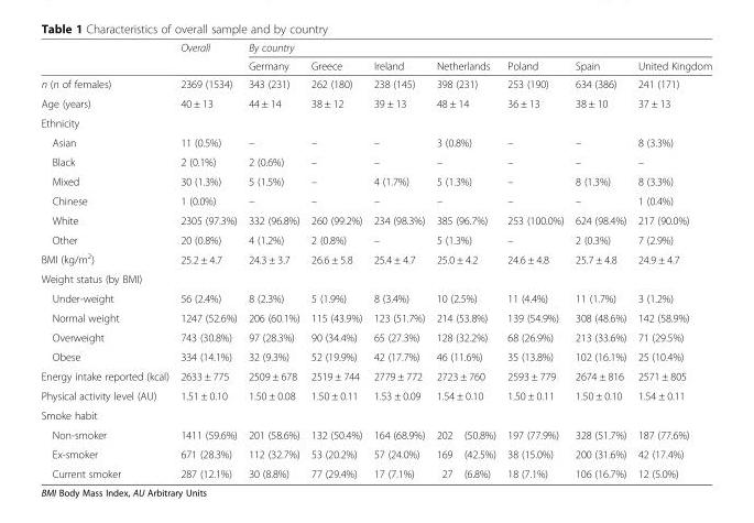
<table><thead><tr><td rowspan="2"></td><td rowspan="2">Overall</td><td colspan="8">By country</td></tr><tr><td>Germany</td><td>Greece</td><td>Ireland</td><td colspan="2">Netherlands</td><td>Poland</td><td>Spain</td><td>United Kingdom</td></tr></thead><tbody><tr><td>n (n of females)</td><td>2369 (1534)</td><td>343 (231)</td><td>262 (180)</td><td>238 (145)</td><td colspan="2">398 (231)</td><td>253 (190)</td><td>634 (386)</td><td>241 (171)</td></tr><tr><td>Age (years)</td><td>40 ± 13</td><td>44 ± 14</td><td>38 ± 12</td><td>39 ± 13</td><td colspan="2">48 ± 14</td><td>36 ± 13</td><td>38 ± 10</td><td>37 ± 13</td></tr><tr><td colspan="10">Ethnicity</td></tr><tr><td>Asian</td><td>11 (0.5%)</td><td>–</td><td>–</td><td>–</td><td colspan="2">3 (0.8%)</td><td>–</td><td>–</td><td>8 (3.3%)</td></tr><tr><td>Black</td><td>2 (0.1%)</td><td>2 (0.6%)</td><td>–</td><td>–</td><td colspan="2">–</td><td>–</td><td>–</td><td>–</td></tr><tr><td>Mixed</td><td>30 (1.3%)</td><td>5 (1.5%)</td><td>–</td><td>4 (1.7%)</td><td colspan="2">5 (1.3%)</td><td>–</td><td>8 (1.3%)</td><td>8 (3.3%)</td></tr><tr><td>Chinese</td><td>1 (0.0%)</td><td>–</td><td>–</td><td>–</td><td colspan="2">–</td><td>–</td><td>–</td><td>1 (0.4%)</td></tr><tr><td>White</td><td>2305 (97.3%)</td><td>332 (96.8%)</td><td>260 (99.2%)</td><td>234 (98.3%)</td><td colspan="2">385 (96.7%)</td><td>253 (100.0%)</td><td>624 (98.4%)</td><td>217 (90.0%)</td></tr><tr><td>Other</td><td>20 (0.8%)</td><td>4 (1.2%)</td><td>2 (0.8%)</td><td>–</td><td colspan="2">5 (1.3%)</td><td>–</td><td>2 (0.3%)</td><td>7 (2.9%)</td></tr><tr><td>BMI (kg/m<sup>2</sup>)</td><td>25.2 ± 4.7</td><td>24.3 ± 3.7</td><td>26.6 ± 5.8</td><td>25.4 ± 4.7</td><td colspan="2">25.0 ± 4.2</td><td>24.6 ± 4.8</td><td>25.7 ± 4.8</td><td>24.9 ± 4.7</td></tr><tr><td colspan="10">Weight status (by BMI)</td></tr><tr><td>Under-weight</td><td>56 (2.4%)</td><td>8 (2.3%)</td><td>5 (1.9%)</td><td>8 (3.4%)</td><td colspan="2">10 (2.5%)</td><td>11 (4.4%)</td><td>11 (1.7%)</td><td>3 (1.2%)</td></tr><tr><td>Normal weight</td><td>1247 (52.6%)</td><td>206 (60.1%)</td><td>115 (43.9%)</td><td>123 (51.7%)</td><td colspan="2">214 (53.8%)</td><td>139 (54.9%)</td><td>308 (48.6%)</td><td>142 (58.9%)</td></tr><tr><td>Overweight</td><td>743 (30.8%)</td><td>97 (28.3%)</td><td>90 (34.4%)</td><td>65 (27.3%)</td><td colspan="2">128 (32.2%)</td><td>68 (26.9%)</td><td>213 (33.6%)</td><td>71 (29.5%)</td></tr><tr><td>Obese</td><td>334 (14.1%)</td><td>32 (9.3%)</td><td>52 (19.9%)</td><td>42 (17.7%)</td><td colspan="2">46 (11.6%)</td><td>35 (13.8%)</td><td>102 (16.1%)</td><td>25 (10.4%)</td></tr><tr><td>Energy intake reported (kcal)</td><td>2633 ± 775</td><td>2509 ± 678</td><td>2519 ± 744</td><td>2779 ± 772</td><td colspan="2">2723 ± 760</td><td>2593 ± 779</td><td>2674 ± 816</td><td>2571 ± 805</td></tr><tr><td>Physical activity level (AU)</td><td>1.51 ± 0.10</td><td>1.50 ± 0.08</td><td>1.50 ± 0.11</td><td>1.53 ± 0.09</td><td colspan="2">1.54 ± 0.10</td><td>1.50 ± 0.11</td><td>1.50 ± 0.10</td><td>1.54 ± 0.11</td></tr><tr><td colspan="10">Smoke habit</td></tr><tr><td>Non-smoker</td><td>1411 (59.6%)</td><td>201 (58.6%)</td><td>132 (50.4%)</td><td>164 (68.9%)</td><td>202</td><td>(50.8%)</td><td>197 (77.9%)</td><td>328 (51.7%)</td><td>187 (77.6%)</td></tr><tr><td>Ex-smoker</td><td>671 (28.3%)</td><td>112 (32.7%)</td><td>53 (20.2%)</td><td>57 (24.0%)</td><td>169</td><td>(42.5%)</td><td>38 (15.0%)</td><td>200 (31.6%)</td><td>42 (17.4%)</td></tr><tr><td>Current smoker</td><td>287 (12.1%)</td><td>30 (8.8%)</td><td>77 (29.4%)</td><td>17 (7.1%)</td><td>27</td><td>(6.8%)</td><td>18 (7.1%)</td><td>106 (16.7%)</td><td>12 (5.0%)</td></tr></tbody></table>